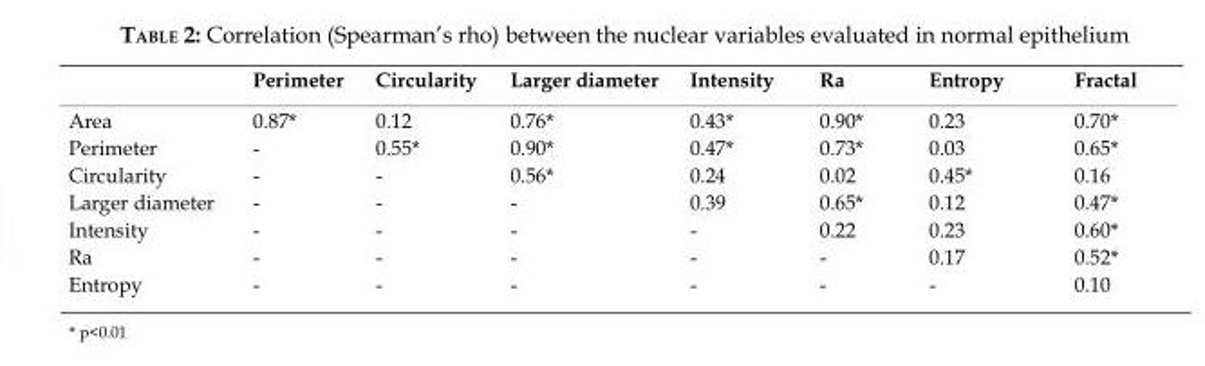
<table><thead><tr><td></td><td>Perimeter</td><td>Circularity</td><td>Larger diameter</td><td>Intensity</td><td>Ra</td><td>Entropy</td><td>Fractal</td></tr></thead><tbody><tr><td>Area</td><td>0.87*</td><td>0.12</td><td>0.76*</td><td>0.43*</td><td>0.90*</td><td>0.23</td><td>0.70*</td></tr><tr><td>Perimeter</td><td>-</td><td>0.55*</td><td>0.90*</td><td>0.47*</td><td>0.73*</td><td>0.03</td><td>0.65*</td></tr><tr><td>Circularity</td><td>-</td><td>-</td><td>0.56*</td><td>0.24</td><td>0.02</td><td>0.45*</td><td>0.16</td></tr><tr><td>Larger diameter</td><td>-</td><td>-</td><td>-</td><td>0.39</td><td>0.65*</td><td>0.12</td><td>0.47*</td></tr><tr><td>Intensity</td><td>-</td><td>-</td><td>-</td><td>-</td><td>0.22</td><td>0.23</td><td>0.60*</td></tr><tr><td>Ra</td><td>-</td><td>-</td><td>-</td><td>-</td><td>-</td><td>0.17</td><td>0.52*</td></tr><tr><td>Entropy</td><td>-</td><td>-</td><td>-</td><td>-</td><td>-</td><td>-</td><td>0.10</td></tr></tbody></table>